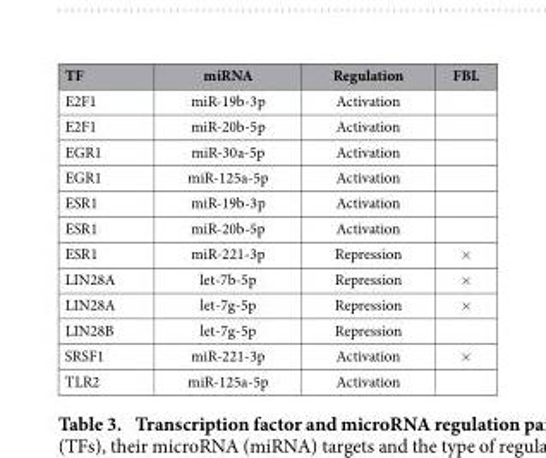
<table><thead><tr><td>TF</td><td>miRNA</td><td>Regulation</td><td>FBL</td></tr></thead><tbody><tr><td>E2F1</td><td>miR-19b-3p</td><td>Activation</td><td></td></tr><tr><td>E2F1</td><td>miR-20b-5p</td><td>Activation</td><td></td></tr><tr><td>EGR1</td><td>miR-30a-5p</td><td>Activation</td><td></td></tr><tr><td>EGR1</td><td>miR-125a-5p</td><td>Activation</td><td></td></tr><tr><td>ESR1</td><td>miR-19b-3p</td><td>Activation</td><td></td></tr><tr><td>ESR1</td><td>miR-20b-5p</td><td>Activation</td><td></td></tr><tr><td>ESR1</td><td>miR-221-3p</td><td>Repression</td><td>×</td></tr><tr><td>LIN28A</td><td>let-7b-5p</td><td>Repression</td><td>×</td></tr><tr><td>LIN28A</td><td>let-7g-5p</td><td>Repression</td><td>×</td></tr><tr><td>LIN28B</td><td>let-7g-5p</td><td>Repression</td><td></td></tr><tr><td>SRSF1</td><td>miR-221-3p</td><td>Activation</td><td>×</td></tr><tr><td>TLR2</td><td>miR-125a-5p</td><td>Activation</td><td></td></tr></tbody></table>